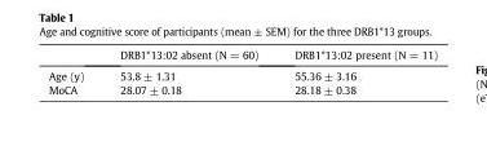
<table><thead><tr><td></td><td>DRB1*13:02 absent (N = 60)</td><td>DRB1*13:02 present (N = 11)</td></tr></thead><tbody><tr><td>Age (y)</td><td>53.8 ± 1.31</td><td>55.36 ± 3.16</td></tr><tr><td>MoCA</td><td>28.07 ± 0.18</td><td>28.18 ± 0.38</td></tr></tbody></table>